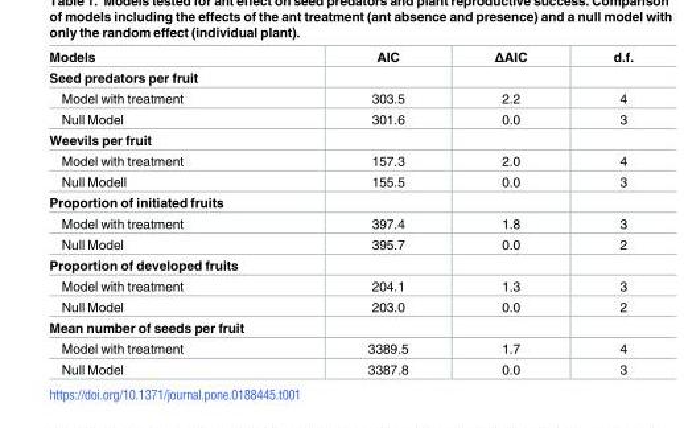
<table><thead><tr><td>Models</td><td>AIC</td><td>ΔAIC</td><td>d.f.</td></tr></thead><tbody><tr><td colspan="4">Seed predators per fruit</td></tr><tr><td>Model with treatment</td><td>303.5</td><td>2.2</td><td>4</td></tr><tr><td>Null Model</td><td>301.6</td><td>0.0</td><td>3</td></tr><tr><td colspan="4">Weevils per fruit</td></tr><tr><td>Model with treatment</td><td>157.3</td><td>2.0</td><td>4</td></tr><tr><td>Null Modell</td><td>155.5</td><td>0.0</td><td>3</td></tr><tr><td colspan="4">Proportion of initiated fruits</td></tr><tr><td>Model with treatment</td><td>397.4</td><td>1.8</td><td>3</td></tr><tr><td>Null Model</td><td>395.7</td><td>0.0</td><td>2</td></tr><tr><td colspan="4">Proportion of developed fruits</td></tr><tr><td>Model with treatment</td><td>204.1</td><td>1.3</td><td>3</td></tr><tr><td>Null Model</td><td>203.0</td><td>0.0</td><td>2</td></tr><tr><td colspan="4">Mean number of seeds per fruit</td></tr><tr><td>Model with treatment</td><td>3389.5</td><td>1.7</td><td>4</td></tr><tr><td>Null Model</td><td>3387.8</td><td>0.0</td><td>3</td></tr></tbody></table>